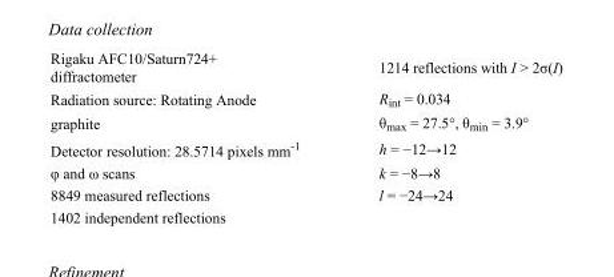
<table><tbody><tr><td>Rigaku AFC10/Saturn724+ diffractometer</td><td>1214 reflections with I &gt; 2σ(I)</td></tr><tr><td>Radiation source: Rotating Anode</td><td>R<sub>int</sub> = 0.034</td></tr><tr><td>graphite</td><td>θ<sub>max</sub> = 27.5°, θ<sub>min</sub> = 3.9°</td></tr><tr><td>Detector resolution: 28.5714 pixels mm<sup>-1</sup></td><td>h = −12→12</td></tr><tr><td>φ and ω scans</td><td>k = −8→8</td></tr><tr><td>8849 measured reflections</td><td>l = −24→24</td></tr><tr><td>1402 independent reflections</td><td></td></tr></tbody></table>